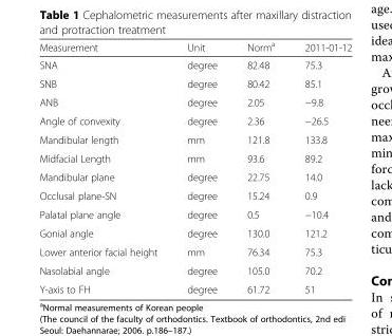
<table><thead><tr><td>Measurement</td><td>Unit</td><td>Norm<sup>a</sup></td><td>2011-01-12</td></tr></thead><tbody><tr><td>SNA</td><td>degree</td><td>82.48</td><td>75.3</td></tr><tr><td>SNB</td><td>degree</td><td>80.42</td><td>85.1</td></tr><tr><td>ANB</td><td>degree</td><td>2.05</td><td>−9.8</td></tr><tr><td>Angle of convexity</td><td>degree</td><td>2.36</td><td>−26.5</td></tr><tr><td>Mandibular length</td><td>mm</td><td>121.8</td><td>133.8</td></tr><tr><td>Midfacial Length</td><td>mm</td><td>93.6</td><td>89.2</td></tr><tr><td>Mandibular plane</td><td>degree</td><td>22.75</td><td>14.0</td></tr><tr><td>Occlusal plane-SN</td><td>degree</td><td>15.24</td><td>0.9</td></tr><tr><td>Palatal plane angle</td><td>degree</td><td>0.5</td><td>−10.4</td></tr><tr><td>Gonial angle</td><td>degree</td><td>130.0</td><td>121.2</td></tr><tr><td>Lower anterior facial height</td><td>mm</td><td>76.34</td><td>75.3</td></tr><tr><td>Nasolabial angle</td><td>degree</td><td>105.0</td><td>70.2</td></tr><tr><td>Y-axis to FH</td><td>degree</td><td>61.72</td><td>51</td></tr></tbody></table>